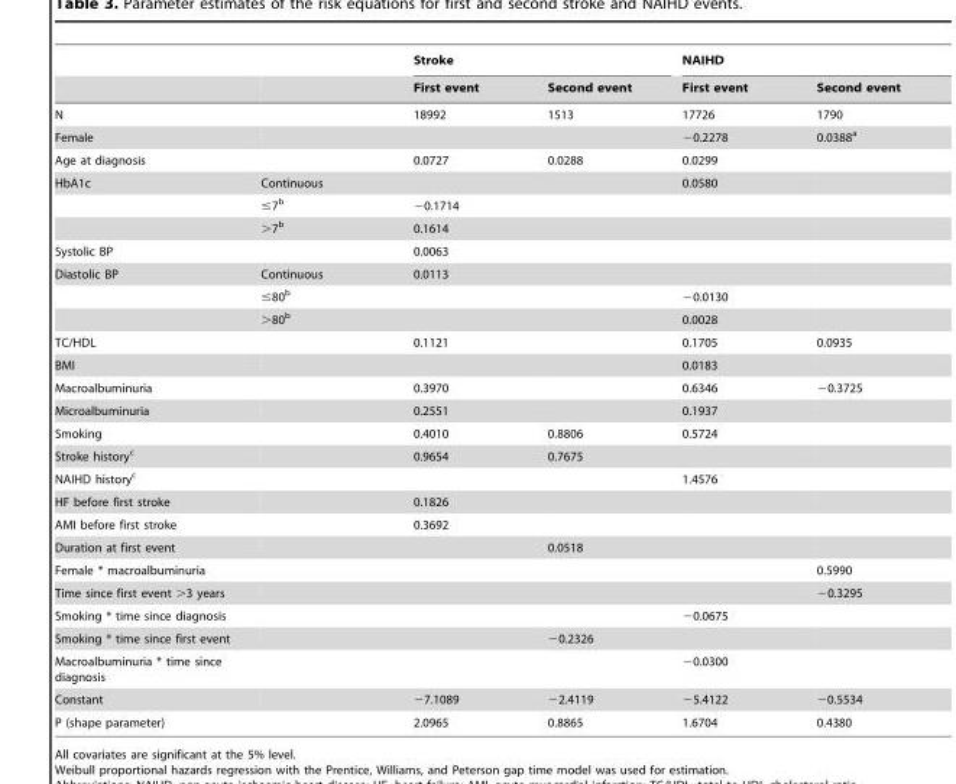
<table><thead><tr><td rowspan="2"></td><td rowspan="2"></td><td colspan="2">Stroke</td><td colspan="2">NAIHD</td></tr><tr><td>First event</td><td>Second event</td><td>First event</td><td>Second event</td></tr></thead><tbody><tr><td>N</td><td></td><td>18992</td><td>1513</td><td>17726</td><td>1790</td></tr><tr><td>Female</td><td></td><td></td><td></td><td>−0.2278</td><td>0.0388<sup>a</sup></td></tr><tr><td>Age at diagnosis</td><td></td><td>0.0727</td><td>0.0288</td><td>0.0299</td><td></td></tr><tr><td rowspan="3">HbA1c</td><td>Continuous</td><td></td><td></td><td>0.0580</td><td></td></tr><tr><td>≤7<sup>b</sup></td><td>−0.1714</td><td></td><td></td><td></td></tr><tr><td>&gt;7<sup>b</sup></td><td>0.1614</td><td></td><td></td><td></td></tr><tr><td>Systolic BP</td><td></td><td>0.0063</td><td></td><td></td><td></td></tr><tr><td rowspan="3">Diastolic BP</td><td>Continuous</td><td>0.0113</td><td></td><td></td><td></td></tr><tr><td>≤80<sup>b</sup></td><td></td><td></td><td>−0.0130</td><td></td></tr><tr><td>&gt;80<sup>b</sup></td><td></td><td></td><td>0.0028</td><td></td></tr><tr><td>TC/HDL</td><td></td><td>0.1121</td><td></td><td>0.1705</td><td>0.0935</td></tr><tr><td>BMI</td><td></td><td></td><td></td><td>0.0183</td><td></td></tr><tr><td>Macroalbuminuria</td><td></td><td>0.3970</td><td></td><td>0.6346</td><td>−0.3725</td></tr><tr><td>Microalbuminuria</td><td></td><td>0.2551</td><td></td><td>0.1937</td><td></td></tr><tr><td>Smoking</td><td></td><td>0.4010</td><td>0.8806</td><td>0.5724</td><td></td></tr><tr><td>Stroke history<sup>c</sup></td><td></td><td>0.9654</td><td>0.7675</td><td></td><td></td></tr><tr><td>NAIHD history<sup>c</sup></td><td></td><td></td><td></td><td>1.4576</td><td></td></tr><tr><td>HF before first stroke</td><td></td><td>0.1826</td><td></td><td></td><td></td></tr><tr><td>AMI before first stroke</td><td></td><td>0.3692</td><td></td><td></td><td></td></tr><tr><td>Duration at first event</td><td></td><td></td><td>0.0518</td><td></td><td></td></tr><tr><td>Female * macroalbuminuria</td><td></td><td></td><td></td><td></td><td>0.5990</td></tr><tr><td>Time since first event &gt;3 years</td><td></td><td></td><td></td><td></td><td>−0.3295</td></tr><tr><td>Smoking * time since diagnosis</td><td></td><td></td><td></td><td>−0.0675</td><td></td></tr><tr><td>Smoking * time since first event</td><td></td><td></td><td>−0.2326</td><td></td><td></td></tr><tr><td>Macroalbuminuria * time since diagnosis</td><td></td><td></td><td></td><td>−0.0300</td><td></td></tr><tr><td>Constant</td><td></td><td>−7.1089</td><td>−2.4119</td><td>−5.4122</td><td>−0.5534</td></tr><tr><td>P (shape parameter)</td><td></td><td>2.0965</td><td>0.8865</td><td>1.6704</td><td>0.4380</td></tr></tbody></table>